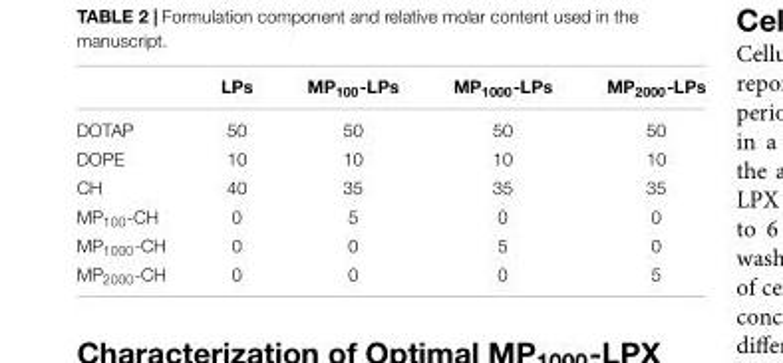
<table><thead><tr><td></td><td>LPs</td><td>MP<sub>100</sub>-LPs</td><td>MP<sub>1000</sub>-LPs</td><td>MP<sub>2000</sub>-LPs</td></tr></thead><tbody><tr><td>DOTAP</td><td>50</td><td>50</td><td>50</td><td>50</td></tr><tr><td>DOPE</td><td>10</td><td>10</td><td>10</td><td>10</td></tr><tr><td>CH</td><td>40</td><td>35</td><td>35</td><td>35</td></tr><tr><td>MP<sub>100</sub>-CH</td><td>0</td><td>5</td><td>0</td><td>0</td></tr><tr><td>MP<sub>1000</sub>-CH</td><td>0</td><td>0</td><td>5</td><td>0</td></tr><tr><td>MP<sub>2000</sub>-CH</td><td>0</td><td>0</td><td>0</td><td>5</td></tr></tbody></table>